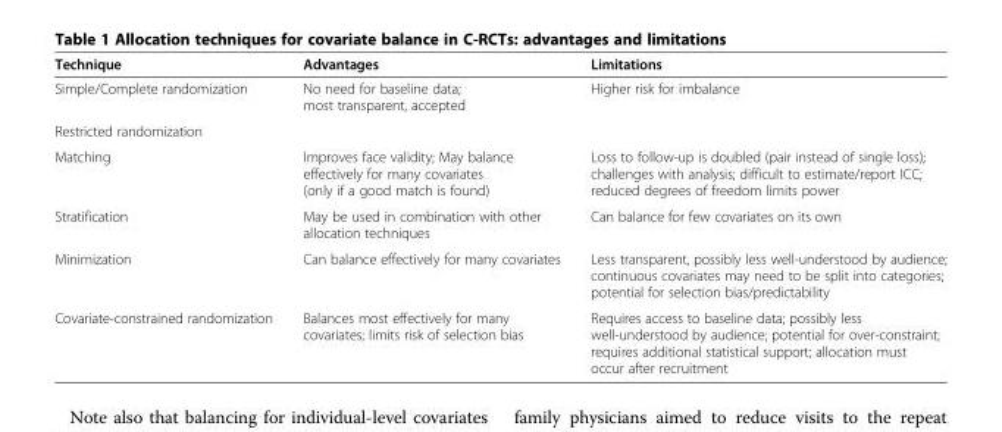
<table><thead><tr><td>Technique</td><td>Advantages</td><td>Limitations</td></tr></thead><tbody><tr><td>Simple/Complete randomization</td><td>No need for baseline data; most transparent, accepted</td><td>Higher risk for imbalance</td></tr><tr><td colspan="3">Restricted randomization</td></tr><tr><td>Matching</td><td>Improves face validity; May balance effectively for many covariates (only if a good match is found)</td><td>Loss to follow-up is doubled (pair instead of single loss); challenges with analysis; difficult to estimate/report ICC; reduced degrees of freedom limits power</td></tr><tr><td>Stratification</td><td>May be used in combination with other allocation techniques</td><td>Can balance for few covariates on its own</td></tr><tr><td>Minimization</td><td>Can balance effectively for many covariates</td><td>Less transparent, possibly less well-understood by audience; continuous covariates may need to be split into categories; potential for selection bias/predictability</td></tr><tr><td>Covariate-constrained randomization</td><td>Balances most effectively for many covariates; limits risk of selection bias</td><td>Requires access to baseline data; possibly less well-understood by audience; potential for over-constraint; requires additional statistical support; allocation must occur after recruitment</td></tr></tbody></table>